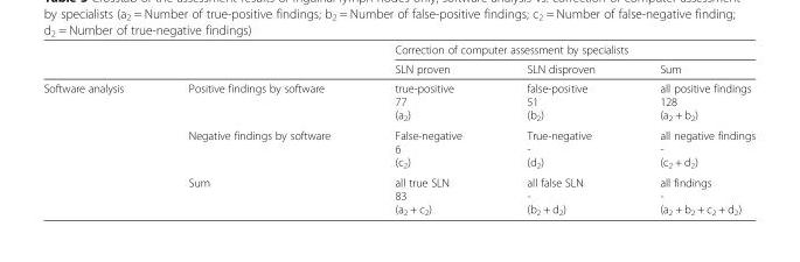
<table><thead><tr><td rowspan="2"></td><td rowspan="2"></td><td colspan="3">Correction of computer assessment by specialists</td></tr><tr><td>SLN proven</td><td>SLN disproven</td><td>Sum</td></tr></thead><tbody><tr><td rowspan="3">Software analysis</td><td>Positive findings by software</td><td>true-positive 77 (a<sub>2</sub>)</td><td>false-positive 51 (b<sub>2</sub>)</td><td>all positive findings 128 (a<sub>2</sub> + b<sub>2</sub>)</td></tr><tr><td>Negative findings by software</td><td>False-negative 6 (c<sub>2</sub>)</td><td>True-negative - (d<sub>2</sub>)</td><td>all negative findings - (c<sub>2</sub> + d<sub>2</sub>)</td></tr><tr><td>Sum</td><td>all true SLN 83 (a<sub>2</sub> + c<sub>2</sub>)</td><td>all false SLN - (b<sub>2</sub> + d<sub>2</sub>)</td><td>all findings - (a<sub>2</sub> + b<sub>2</sub> + c<sub>2</sub> + d<sub>2</sub>)</td></tr></tbody></table>